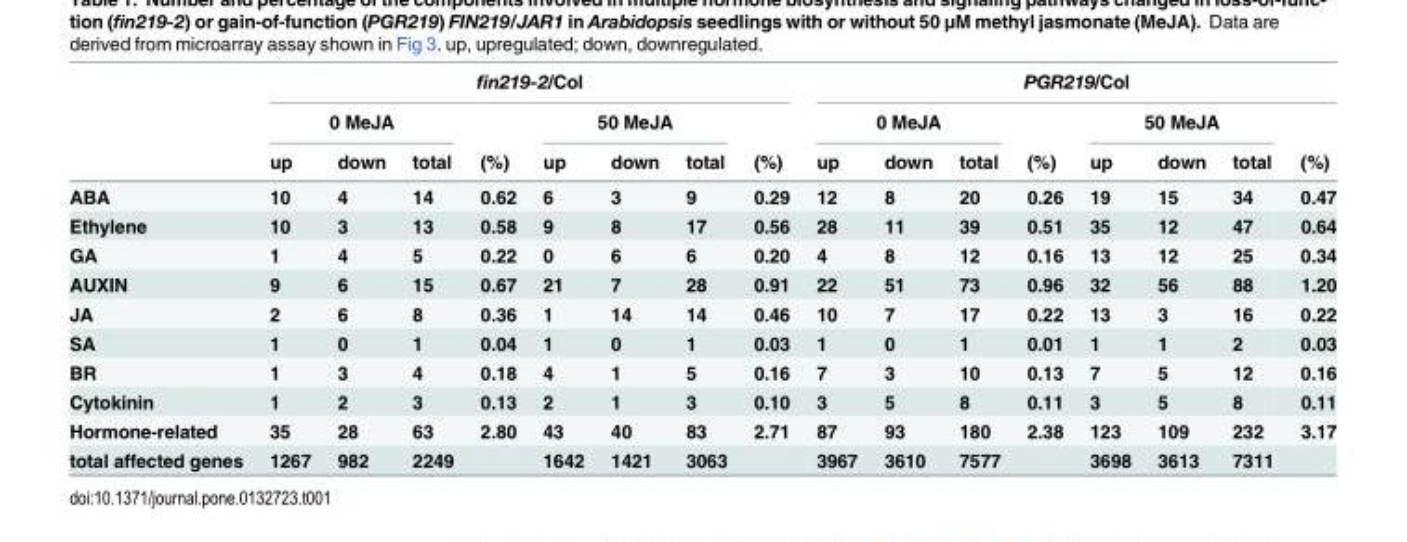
<table><thead><tr><td rowspan="3"></td><td colspan="8">fin219-2/Col</td><td colspan="8">PGR219/Col</td></tr><tr><td colspan="3">0 MeJA</td><td rowspan="2">(%)</td><td colspan="3">50 MeJA</td><td rowspan="2">(%)</td><td colspan="3">0 MeJA</td><td rowspan="2">(%)</td><td colspan="3">50 MeJA</td><td rowspan="2">(%)</td></tr><tr><td>up</td><td>down</td><td>total</td><td>up</td><td>down</td><td>total</td><td>up</td><td>down</td><td>total</td><td>up</td><td>down</td><td>total</td></tr></thead><tbody><tr><td>ABA</td><td>10</td><td>4</td><td>14</td><td>0.62</td><td>6</td><td>3</td><td>9</td><td>0.29</td><td>12</td><td>8</td><td>20</td><td>0.26</td><td>19</td><td>15</td><td>34</td><td>0.47</td></tr><tr><td>Ethylene</td><td>10</td><td>3</td><td>13</td><td>0.58</td><td>9</td><td>8</td><td>17</td><td>0.56</td><td>28</td><td>11</td><td>39</td><td>0.51</td><td>35</td><td>12</td><td>47</td><td>0.64</td></tr><tr><td>GA</td><td>1</td><td>4</td><td>5</td><td>0.22</td><td>0</td><td>6</td><td>6</td><td>0.20</td><td>4</td><td>8</td><td>12</td><td>0.16</td><td>13</td><td>12</td><td>25</td><td>0.34</td></tr><tr><td>AUXIN</td><td>9</td><td>6</td><td>15</td><td>0.67</td><td>21</td><td>7</td><td>28</td><td>0.91</td><td>22</td><td>51</td><td>73</td><td>0.96</td><td>32</td><td>56</td><td>88</td><td>1.20</td></tr><tr><td>JA</td><td>2</td><td>6</td><td>8</td><td>0.36</td><td>1</td><td>14</td><td>14</td><td>0.46</td><td>10</td><td>7</td><td>17</td><td>0.22</td><td>13</td><td>3</td><td>16</td><td>0.22</td></tr><tr><td>SA</td><td>1</td><td>0</td><td>1</td><td>0.04</td><td>1</td><td>0</td><td>1</td><td>0.03</td><td>1</td><td>0</td><td>1</td><td>0.01</td><td>1</td><td>1</td><td>2</td><td>0.03</td></tr><tr><td>BR</td><td>1</td><td>3</td><td>4</td><td>0.18</td><td>4</td><td>1</td><td>5</td><td>0.16</td><td>7</td><td>3</td><td>10</td><td>0.13</td><td>7</td><td>5</td><td>12</td><td>0.16</td></tr><tr><td>Cytokinin</td><td>1</td><td>2</td><td>3</td><td>0.13</td><td>2</td><td>1</td><td>3</td><td>0.10</td><td>3</td><td>5</td><td>8</td><td>0.11</td><td>3</td><td>5</td><td>8</td><td>0.11</td></tr><tr><td>Hormone-related</td><td>35</td><td>28</td><td>63</td><td>2.80</td><td>43</td><td>40</td><td>83</td><td>2.71</td><td>87</td><td>93</td><td>180</td><td>2.38</td><td>123</td><td>109</td><td>232</td><td>3.17</td></tr><tr><td>total affected genes</td><td>1267</td><td>982</td><td>2249</td><td></td><td>1642</td><td>1421</td><td>3063</td><td></td><td>3967</td><td>3610</td><td>7577</td><td></td><td>3698</td><td>3613</td><td>7311</td><td></td></tr></tbody></table>